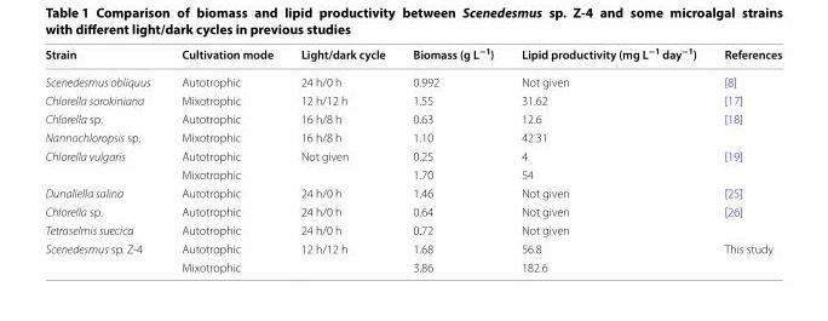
<table><thead><tr><td>Strain</td><td>Cultivation mode</td><td>Light/dark cycle</td><td>Biomass (g L<sup>−1</sup>)</td><td>Lipid productivity (mg L<sup>−1</sup> day<sup>−1</sup>)</td><td>References</td></tr></thead><tbody><tr><td>Scenedesmus obliquus</td><td>Autotrophic</td><td>24 h/0 h</td><td>0.992</td><td>Not given</td><td>[8]</td></tr><tr><td>Chlorella sorokiniana</td><td>Mixotrophic</td><td>12 h/12 h</td><td>1.55</td><td>31.62</td><td>[17]</td></tr><tr><td>Chlorella sp.</td><td>Autotrophic</td><td>16 h/8 h</td><td>0.63</td><td>12.6</td><td rowspan="2">[18]</td></tr><tr><td>Nannochloropsis sp.</td><td>Mixotrophic</td><td>16 h/8 h</td><td>1.10</td><td>42.31</td></tr><tr><td rowspan="2">Chlorella vulgaris</td><td>Autotrophic</td><td rowspan="2">Not given</td><td>0.25</td><td>4</td><td rowspan="2">[19]</td></tr><tr><td>Mixotrophic</td><td>1.70</td><td>54</td></tr><tr><td>Dunaliella salina</td><td>Autotrophic</td><td>24 h/0 h</td><td>1.46</td><td>Not given</td><td>[25]</td></tr><tr><td>Chlorella sp.</td><td>Autotrophic</td><td>24 h/0 h</td><td>0.64</td><td>Not given</td><td rowspan="2">[26]</td></tr><tr><td>Tetraselmis suecica</td><td>Autotrophic</td><td>24 h/0 h</td><td>0.72</td><td>Not given</td></tr><tr><td rowspan="2">Scenedesmus sp. Z‑4</td><td>Autotrophic</td><td rowspan="2">12 h/12 h</td><td>1.68</td><td>56.8</td><td rowspan="2">This study</td></tr><tr><td>Mixotrophic</td><td>3.86</td><td>182.6</td></tr></tbody></table>